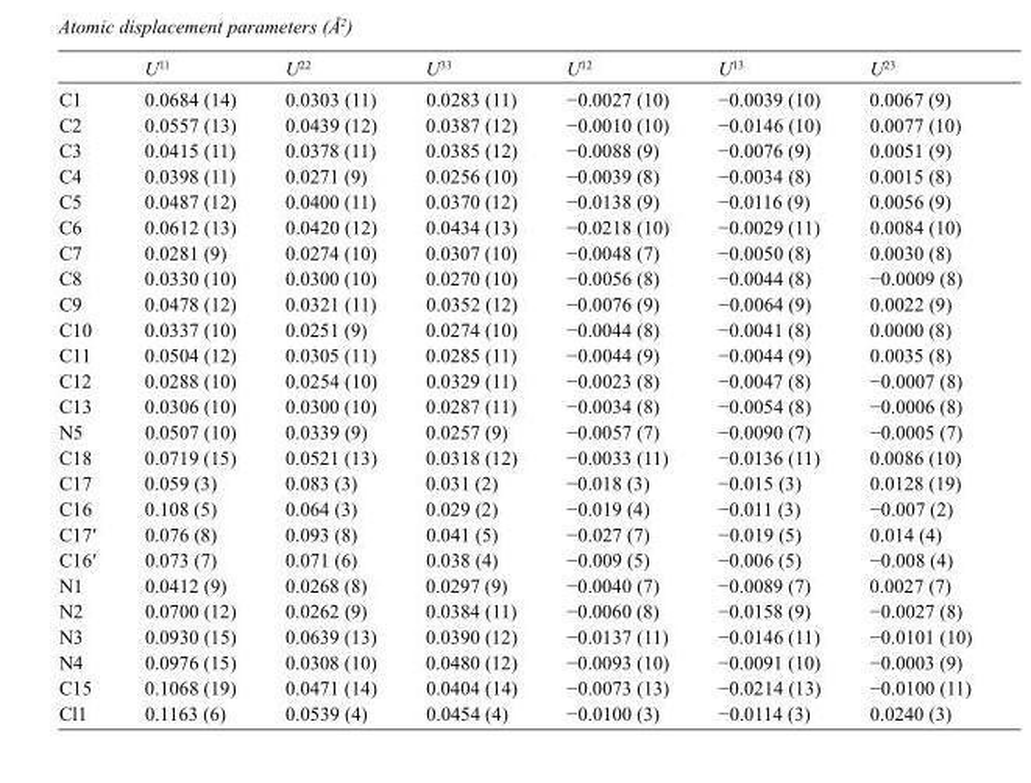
<table><thead><tr><td></td><td>U<sup>11</sup></td><td>U<sup>22</sup></td><td>U<sup>33</sup></td><td>U<sup>12</sup></td><td>U<sup>13</sup></td><td>U<sup>23</sup></td></tr></thead><tbody><tr><td>C1</td><td>0.0684 (14)</td><td>0.0303 (11)</td><td>0.0283 (11)</td><td>−0.0027 (10)</td><td>−0.0039 (10)</td><td>0.0067 (9)</td></tr><tr><td>C2</td><td>0.0557 (13)</td><td>0.0439 (12)</td><td>0.0387 (12)</td><td>−0.0010 (10)</td><td>−0.0146 (10)</td><td>0.0077 (10)</td></tr><tr><td>C3</td><td>0.0415 (11)</td><td>0.0378 (11)</td><td>0.0385 (12)</td><td>−0.0088 (9)</td><td>−0.0076 (9)</td><td>0.0051 (9)</td></tr><tr><td>C4</td><td>0.0398 (11)</td><td>0.0271 (9)</td><td>0.0256 (10)</td><td>−0.0039 (8)</td><td>−0.0034 (8)</td><td>0.0015 (8)</td></tr><tr><td>C5</td><td>0.0487 (12)</td><td>0.0400 (11)</td><td>0.0370 (12)</td><td>−0.0138 (9)</td><td>−0.0116 (9)</td><td>0.0056 (9)</td></tr><tr><td>C6</td><td>0.0612 (13)</td><td>0.0420 (12)</td><td>0.0434 (13)</td><td>−0.0218 (10)</td><td>−0.0029 (11)</td><td>0.0084 (10)</td></tr><tr><td>C7</td><td>0.0281 (9)</td><td>0.0274 (10)</td><td>0.0307 (10)</td><td>−0.0048 (7)</td><td>−0.0050 (8)</td><td>0.0030 (8)</td></tr><tr><td>C8</td><td>0.0330 (10)</td><td>0.0300 (10)</td><td>0.0270 (10)</td><td>−0.0056 (8)</td><td>−0.0044 (8)</td><td>−0.0009 (8)</td></tr><tr><td>C9</td><td>0.0478 (12)</td><td>0.0321 (11)</td><td>0.0352 (12)</td><td>−0.0076 (9)</td><td>−0.0064 (9)</td><td>0.0022 (9)</td></tr><tr><td>C10</td><td>0.0337 (10)</td><td>0.0251 (9)</td><td>0.0274 (10)</td><td>−0.0044 (8)</td><td>−0.0041 (8)</td><td>0.0000 (8)</td></tr><tr><td>C11</td><td>0.0504 (12)</td><td>0.0305 (11)</td><td>0.0285 (11)</td><td>−0.0044 (9)</td><td>−0.0044 (9)</td><td>0.0035 (8)</td></tr><tr><td>C12</td><td>0.0288 (10)</td><td>0.0254 (10)</td><td>0.0329 (11)</td><td>−0.0023 (8)</td><td>−0.0047 (8)</td><td>−0.0007 (8)</td></tr><tr><td>C13</td><td>0.0306 (10)</td><td>0.0300 (10)</td><td>0.0287 (11)</td><td>−0.0034 (8)</td><td>−0.0054 (8)</td><td>−0.0006 (8)</td></tr><tr><td>N5</td><td>0.0507 (10)</td><td>0.0339 (9)</td><td>0.0257 (9)</td><td>−0.0057 (7)</td><td>−0.0090 (7)</td><td>−0.0005 (7)</td></tr><tr><td>C18</td><td>0.0719 (15)</td><td>0.0521 (13)</td><td>0.0318 (12)</td><td>−0.0033 (11)</td><td>−0.0136 (11)</td><td>0.0086 (10)</td></tr><tr><td>C17</td><td>0.059 (3)</td><td>0.083 (3)</td><td>0.031 (2)</td><td>−0.018 (3)</td><td>−0.015 (3)</td><td>0.0128 (19)</td></tr><tr><td>C16</td><td>0.108 (5)</td><td>0.064 (3)</td><td>0.029 (2)</td><td>−0.019 (4)</td><td>−0.011 (3)</td><td>−0.007 (2)</td></tr><tr><td>C17′</td><td>0.076 (8)</td><td>0.093 (8)</td><td>0.041 (5)</td><td>−0.027 (7)</td><td>−0.019 (5)</td><td>0.014 (4)</td></tr><tr><td>C16′</td><td>0.073 (7)</td><td>0.071 (6)</td><td>0.038 (4)</td><td>−0.009 (5)</td><td>−0.006 (5)</td><td>−0.008 (4)</td></tr><tr><td>N1</td><td>0.0412 (9)</td><td>0.0268 (8)</td><td>0.0297 (9)</td><td>−0.0040 (7)</td><td>−0.0089 (7)</td><td>0.0027 (7)</td></tr><tr><td>N2</td><td>0.0700 (12)</td><td>0.0262 (9)</td><td>0.0384 (11)</td><td>−0.0060 (8)</td><td>−0.0158 (9)</td><td>−0.0027 (8)</td></tr><tr><td>N3</td><td>0.0930 (15)</td><td>0.0639 (13)</td><td>0.0390 (12)</td><td>−0.0137 (11)</td><td>−0.0146 (11)</td><td>−0.0101 (10)</td></tr><tr><td>N4</td><td>0.0976 (15)</td><td>0.0308 (10)</td><td>0.0480 (12)</td><td>−0.0093 (10)</td><td>−0.0091 (10)</td><td>−0.0003 (9)</td></tr><tr><td>C15</td><td>0.1068 (19)</td><td>0.0471 (14)</td><td>0.0404 (14)</td><td>−0.0073 (13)</td><td>−0.0214 (13)</td><td>−0.0100 (11)</td></tr><tr><td>Cl1</td><td>0.1163 (6)</td><td>0.0539 (4)</td><td>0.0454 (4)</td><td>−0.0100 (3)</td><td>−0.0114 (3)</td><td>0.0240 (3)</td></tr></tbody></table>